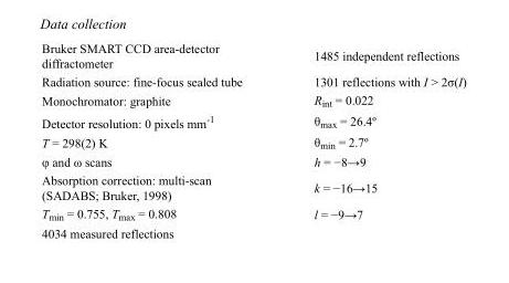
<table><tbody><tr><td>Bruker SMART CCD area-detector diffractometer</td><td>1485 independent reflections</td></tr><tr><td>Radiation source: fine-focus sealed tube</td><td>1301 reflections with I &gt; 2σ(I)</td></tr><tr><td>Monochromator: graphite</td><td>R<sub>int</sub> = 0.022</td></tr><tr><td>Detector resolution: 0 pixels mm<sup>-1</sup></td><td>θ<sub>max</sub> = 26.4º</td></tr><tr><td>T = 298(2) K</td><td>θ<sub>min</sub> = 2.7º</td></tr><tr><td>φ and ω scans</td><td>h = −8→9</td></tr><tr><td>Absorption correction: multi-scan (SADABS; Bruker, 1998)</td><td>k = −16→15</td></tr><tr><td>T<sub>min</sub> = 0.755, T<sub>max</sub> = 0.808</td><td>l = −9→7</td></tr><tr><td>4034 measured reflections</td><td></td></tr></tbody></table>